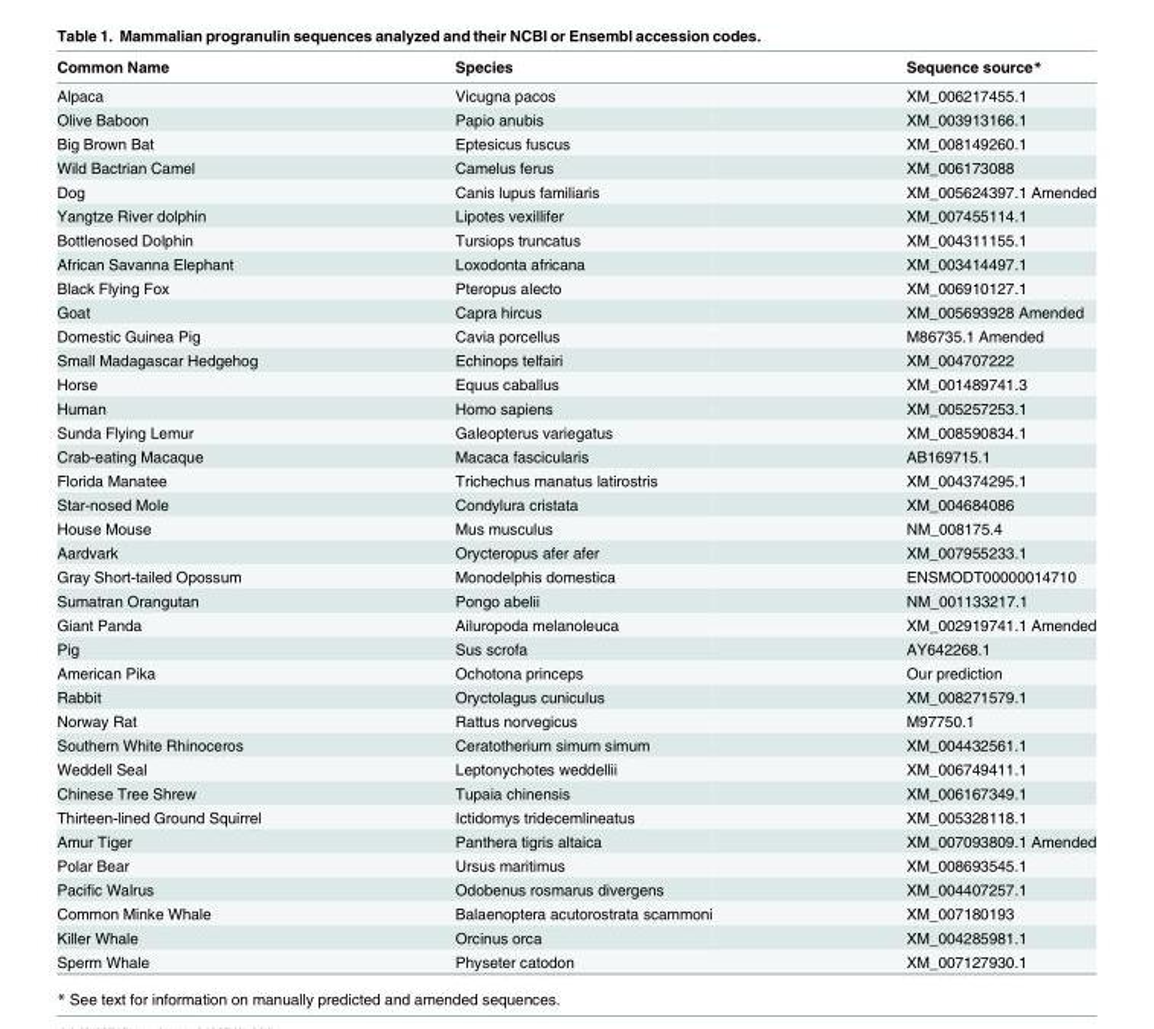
<table><thead><tr><td>Common Name</td><td>Species</td><td>Sequence source*</td></tr></thead><tbody><tr><td>Alpaca</td><td>Vicugna pacos</td><td>XM_006217455.1</td></tr><tr><td>Olive Baboon</td><td>Papio anubis</td><td>XM_003913166.1</td></tr><tr><td>Big Brown Bat</td><td>Eptesicus fuscus</td><td>XM_008149260.1</td></tr><tr><td>Wild Bactrian Camel</td><td>Camelus ferus</td><td>XM_006173088</td></tr><tr><td>Dog</td><td>Canis lupus familiaris</td><td>XM_005624397.1 Amended</td></tr><tr><td>Yangtze River dolphin</td><td>Lipotes vexillifer</td><td>XM_007455114.1</td></tr><tr><td>Bottlenosed Dolphin</td><td>Tursiops truncatus</td><td>XM_004311155.1</td></tr><tr><td>African Savanna Elephant</td><td>Loxodonta africana</td><td>XM_003414497.1</td></tr><tr><td>Black Flying Fox</td><td>Pteropus alecto</td><td>XM_006910127.1</td></tr><tr><td>Goat</td><td>Capra hircus</td><td>XM_005693928 Amended</td></tr><tr><td>Domestic Guinea Pig</td><td>Cavia porcellus</td><td>M86735.1 Amended</td></tr><tr><td>Small Madagascar Hedgehog</td><td>Echinops telfairi</td><td>XM_004707222</td></tr><tr><td>Horse</td><td>Equus caballus</td><td>XM_001489741.3</td></tr><tr><td>Human</td><td>Homo sapiens</td><td>XM_005257253.1</td></tr><tr><td>Sunda Flying Lemur</td><td>Galeopterus variegatus</td><td>XM_008590834.1</td></tr><tr><td>Crab-eating Macaque</td><td>Macaca fascicularis</td><td>AB169715.1</td></tr><tr><td>Florida Manatee</td><td>Trichechus manatus latirostris</td><td>XM_004374295.1</td></tr><tr><td>Star-nosed Mole</td><td>Condylura cristata</td><td>XM_004684086</td></tr><tr><td>House Mouse</td><td>Mus musculus</td><td>NM_008175.4</td></tr><tr><td>Aardvark</td><td>Orycteropus afer afer</td><td>XM_007955233.1</td></tr><tr><td>Gray Short-tailed Opossum</td><td>Monodelphis domestica</td><td>ENSMODT00000014710</td></tr><tr><td>Sumatran Orangutan</td><td>Pongo abelii</td><td>NM_001133217.1</td></tr><tr><td>Giant Panda</td><td>Ailuropoda melanoleuca</td><td>XM_002919741.1 Amended</td></tr><tr><td>Pig</td><td>Sus scrofa</td><td>AY642268.1</td></tr><tr><td>American Pika</td><td>Ochotona princeps</td><td>Our prediction</td></tr><tr><td>Rabbit</td><td>Oryctolagus cuniculus</td><td>XM_008271579.1</td></tr><tr><td>Norway Rat</td><td>Rattus norvegicus</td><td>M97750.1</td></tr><tr><td>Southern White Rhinoceros</td><td>Ceratotherium simum simum</td><td>XM_004432561.1</td></tr><tr><td>Weddell Seal</td><td>Leptonychotes weddellii</td><td>XM_006749411.1</td></tr><tr><td>Chinese Tree Shrew</td><td>Tupaia chinensis</td><td>XM_006167349.1</td></tr><tr><td>Thirteen-lined Ground Squirrel</td><td>Ictidomys tridecemlineatus</td><td>XM_005328118.1</td></tr><tr><td>Amur Tiger</td><td>Panthera tigris altaica</td><td>XM_007093809.1 Amended</td></tr><tr><td>Polar Bear</td><td>Ursus maritimus</td><td>XM_008693545.1</td></tr><tr><td>Pacific Walrus</td><td>Odobenus rosmarus divergens</td><td>XM_004407257.1</td></tr><tr><td>Common Minke Whale</td><td>Balaenoptera acutorostrata scammoni</td><td>XM_007180193</td></tr><tr><td>Killer Whale</td><td>Orcinus orca</td><td>XM_004285981.1</td></tr><tr><td>Sperm Whale</td><td>Physeter catodon</td><td>XM_007127930.1</td></tr></tbody></table>